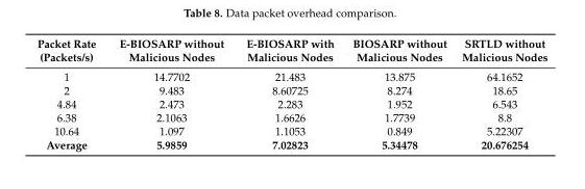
<table><thead><tr><td>Packet Rate (Packets/s)</td><td>E-BIOSARP without Malicious Nodes</td><td>E-BIOSARP with Malicious Nodes</td><td>BIOSARP without Malicious Nodes</td><td>SRTLD without Malicious Nodes</td></tr></thead><tbody><tr><td>1</td><td>14.7702</td><td>21.483</td><td>13.875</td><td>64.1652</td></tr><tr><td>2</td><td>9.483</td><td>8.60725</td><td>8.274</td><td>18.65</td></tr><tr><td>4.84</td><td>2.473</td><td>2.283</td><td>1.952</td><td>6.543</td></tr><tr><td>6.38</td><td>2.1063</td><td>1.6626</td><td>1.7739</td><td>8.8</td></tr><tr><td>10.64</td><td>1.097</td><td>1.1053</td><td>0.849</td><td>5.22307</td></tr><tr><td>Average</td><td>5.9859</td><td>7.02823</td><td>5.34478</td><td>20.676254</td></tr></tbody></table>